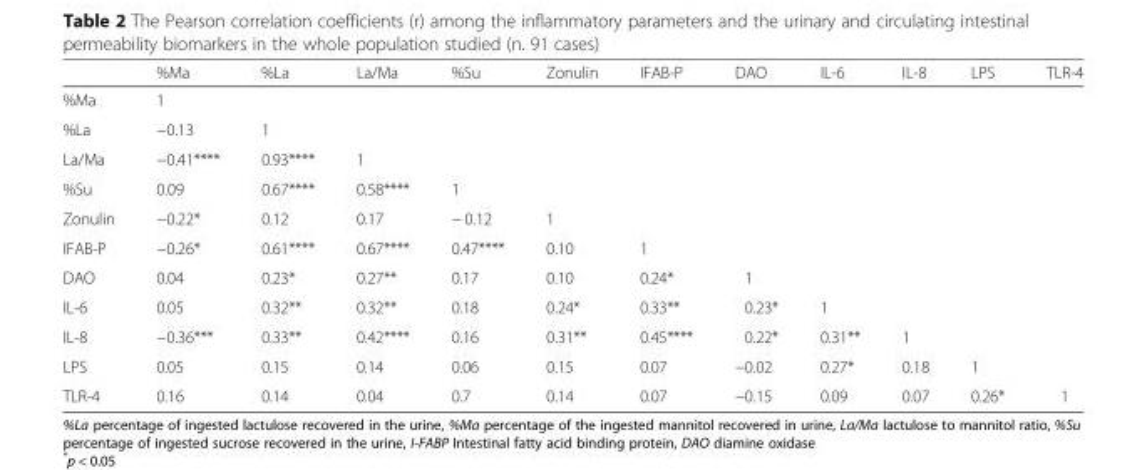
<table><thead><tr><td></td><td>%Ma</td><td>%La</td><td>La/Ma</td><td>%Su</td><td>Zonulin</td><td>IFAB-P</td><td>DAO</td><td>IL-6</td><td>IL-8</td><td>LPS</td><td>TLR-4</td></tr></thead><tbody><tr><td>%Ma</td><td>1</td><td></td><td></td><td></td><td></td><td></td><td></td><td></td><td></td><td></td><td></td></tr><tr><td>%La</td><td>−0.13</td><td>1</td><td></td><td></td><td></td><td></td><td></td><td></td><td></td><td></td><td></td></tr><tr><td>La/Ma</td><td>−0.41****</td><td>0.93****</td><td>1</td><td></td><td></td><td></td><td></td><td></td><td></td><td></td><td></td></tr><tr><td>%Su</td><td>0.09</td><td>0.67****</td><td>0.58****</td><td>1</td><td></td><td></td><td></td><td></td><td></td><td></td><td></td></tr><tr><td>Zonulin</td><td>−0.22*</td><td>0.12</td><td>0.17</td><td>− 0.12</td><td>1</td><td></td><td></td><td></td><td></td><td></td><td></td></tr><tr><td>IFAB-P</td><td>−0.26*</td><td>0.61****</td><td>0.67****</td><td>0.47****</td><td>0.10</td><td>1</td><td></td><td></td><td></td><td></td><td></td></tr><tr><td>DAO</td><td>0.04</td><td>0.23*</td><td>0.27**</td><td>0.17</td><td>0.10</td><td>0.24*</td><td>1</td><td></td><td></td><td></td><td></td></tr><tr><td>IL-6</td><td>0.05</td><td>0.32**</td><td>0.32**</td><td>0.18</td><td>0.24*</td><td>0.33**</td><td>0.23*</td><td>1</td><td></td><td></td><td></td></tr><tr><td>IL-8</td><td>−0.36***</td><td>0.33**</td><td>0.42****</td><td>0.16</td><td>0.31**</td><td>0.45****</td><td>0.22*</td><td>0.31**</td><td>1</td><td></td><td></td></tr><tr><td>LPS</td><td>0.05</td><td>0.15</td><td>0.14</td><td>0.06</td><td>0.15</td><td>0.07</td><td>−0.02</td><td>0.27*</td><td>0.18</td><td>1</td><td></td></tr><tr><td>TLR-4</td><td>0.16</td><td>0.14</td><td>0.04</td><td>0.7</td><td>0.14</td><td>0.07</td><td>−0.15</td><td>0.09</td><td>0.07</td><td>0.26*</td><td>1</td></tr></tbody></table>